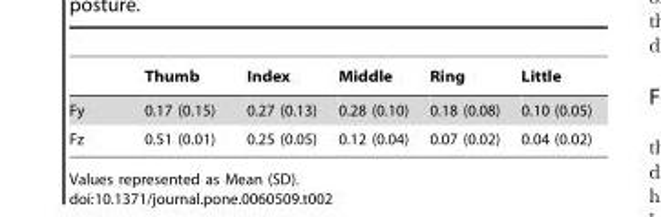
<table><thead><tr><td></td><td>Thumb</td><td>Index</td><td>Middle</td><td>Ring</td><td>Little</td></tr></thead><tbody><tr><td>Fy</td><td>0.17 (0.15)</td><td>0.27 (0.13)</td><td>0.28 (0.10)</td><td>0.18 (0.08)</td><td>0.10 (0.05)</td></tr><tr><td>Fz</td><td>0.51 (0.01)</td><td>0.25 (0.05)</td><td>0.12 (0.04)</td><td>0.07 (0.02)</td><td>0.04 (0.02)</td></tr></tbody></table>